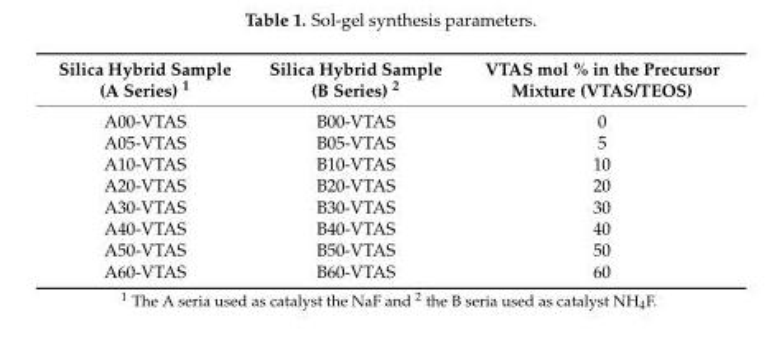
<table><thead><tr><td>Silica Hybrid Sample (A Series) <sup>1</sup></td><td>Silica Hybrid Sample (B Series) <sup>2</sup></td><td>VTAS mol % in the Precursor Mixture (VTAS/TEOS)</td></tr></thead><tbody><tr><td>A00-VTAS</td><td>B00-VTAS</td><td>0</td></tr><tr><td>A05-VTAS</td><td>B05-VTAS</td><td>5</td></tr><tr><td>A10-VTAS</td><td>B10-VTAS</td><td>10</td></tr><tr><td>A20-VTAS</td><td>B20-VTAS</td><td>20</td></tr><tr><td>A30-VTAS</td><td>B30-VTAS</td><td>30</td></tr><tr><td>A40-VTAS</td><td>B40-VTAS</td><td>40</td></tr><tr><td>A50-VTAS</td><td>B50-VTAS</td><td>50</td></tr><tr><td>A60-VTAS</td><td>B60-VTAS</td><td>60</td></tr></tbody></table>